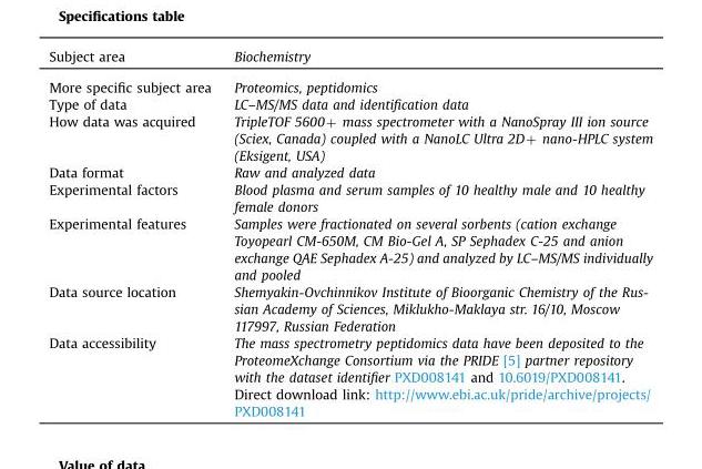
<table><thead><tr><td>Subject area</td><td>Biochemistry</td></tr></thead><tbody><tr><td>More specific subject area</td><td>Proteomics, peptidomics</td></tr><tr><td>Type of data</td><td>LC–MS/MS data and identification data</td></tr><tr><td>How data was acquired</td><td>TripleTOF 5600+ mass spectrometer with a NanoSpray III ion source (Sciex, Canada) coupled with a NanoLC Ultra 2D+ nano-HPLC system (Eksigent, USA)</td></tr><tr><td>Data format</td><td>Raw and analyzed data</td></tr><tr><td>Experimental factors</td><td>Blood plasma and serum samples of 10 healthy male and 10 healthy female donors</td></tr><tr><td>Experimental features</td><td>Samples were fractionated on several sorbents (cation exchange Toyopearl CM-650M, CM Bio-Gel A, SP Sephadex C-25 and anion exchange QAE Sephadex A-25) and analyzed by LC–MS/MS individually and pooled</td></tr><tr><td>Data source location</td><td>Shemyakin-Ovchinnikov Institute of Bioorganic Chemistry of the Rus- sian Academy of Sciences, Miklukho-Maklaya str. 16/10, Moscow 117997, Russian Federation</td></tr><tr><td>Data accessibility</td><td>The mass spectrometry peptidomics data have been deposited to the ProteomeXchange Consortium via the PRIDE [5] partner repository with the dataset identifier PXD008141 and 10.6019/PXD008141. Direct download link: http://www.ebi.ac.uk/pride/archive/projects/ PXD008141</td></tr></tbody></table>